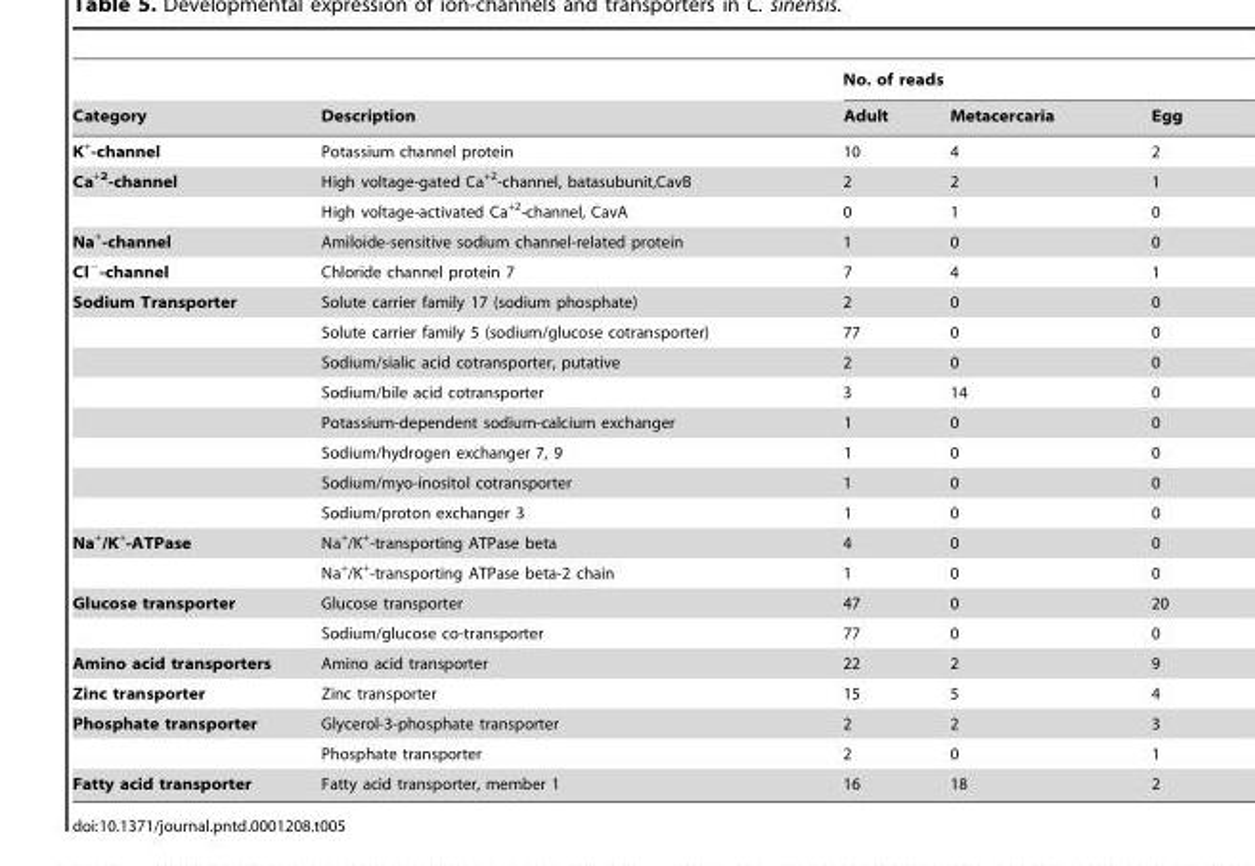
<table><thead><tr><td rowspan="2">Category</td><td rowspan="2">Description</td><td colspan="3">No. of reads</td></tr><tr><td>Adult</td><td>Metacercaria</td><td>Egg</td></tr></thead><tbody><tr><td>K<sup>+</sup>-channel</td><td>Potassium channel protein</td><td>10</td><td>4</td><td>2</td></tr><tr><td rowspan="2">Ca<sup>+2</sup>-channel</td><td>High voltage-gated Ca<sup>+2</sup>-channel, batasubunit,CavB</td><td>2</td><td>2</td><td>1</td></tr><tr><td>High voltage-activated Ca<sup>+2</sup>-channel, CavA</td><td>0</td><td>1</td><td>0</td></tr><tr><td>Na<sup>+</sup>-channel</td><td>Amiloide-sensitive sodium channel-related protein</td><td>1</td><td>0</td><td>0</td></tr><tr><td>Cl<sup>−</sup>-channel</td><td>Chloride channel protein 7</td><td>7</td><td>4</td><td>1</td></tr><tr><td rowspan="8">Sodium Transporter</td><td>Solute carrier family 17 (sodium phosphate)</td><td>2</td><td>0</td><td>0</td></tr><tr><td>Solute carrier family 5 (sodium/glucose cotransporter)</td><td>77</td><td>0</td><td>0</td></tr><tr><td>Sodium/sialic acid cotransporter, putative</td><td>2</td><td>0</td><td>0</td></tr><tr><td>Sodium/bile acid cotransporter</td><td>3</td><td>14</td><td>0</td></tr><tr><td>Potassium-dependent sodium-calcium exchanger</td><td>1</td><td>0</td><td>0</td></tr><tr><td>Sodium/hydrogen exchanger 7, 9</td><td>1</td><td>0</td><td>0</td></tr><tr><td>Sodium/myo-inositol cotransporter</td><td>1</td><td>0</td><td>0</td></tr><tr><td>Sodium/proton exchanger 3</td><td>1</td><td>0</td><td>0</td></tr><tr><td rowspan="2">Na<sup>+</sup>/K<sup>+</sup>-ATPase</td><td>Na<sup>+</sup>/K<sup>+</sup>-transporting ATPase beta</td><td>4</td><td>0</td><td>0</td></tr><tr><td>Na<sup>+</sup>/K<sup>+</sup>-transporting ATPase beta-2 chain</td><td>1</td><td>0</td><td>0</td></tr><tr><td rowspan="2">Glucose transporter</td><td>Glucose transporter</td><td>47</td><td>0</td><td>20</td></tr><tr><td>Sodium/glucose co-transporter</td><td>77</td><td>0</td><td>0</td></tr><tr><td>Amino acid transporters</td><td>Amino acid transporter</td><td>22</td><td>2</td><td>9</td></tr><tr><td>Zinc transporter</td><td>Zinc transporter</td><td>15</td><td>5</td><td>4</td></tr><tr><td rowspan="2">Phosphate transporter</td><td>Glycerol-3-phosphate transporter</td><td>2</td><td>2</td><td>3</td></tr><tr><td>Phosphate transporter</td><td>2</td><td>0</td><td>1</td></tr><tr><td>Fatty acid transporter</td><td>Fatty acid transporter, member 1</td><td>16</td><td>18</td><td>2</td></tr></tbody></table>